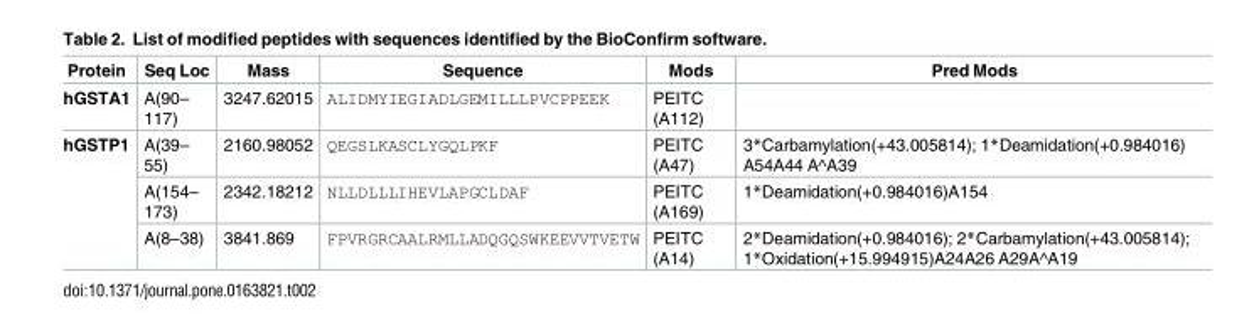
<table><thead><tr><td>Protein</td><td>Seq Loc</td><td>Mass</td><td>Sequence</td><td>Mods</td><td>Pred Mods</td></tr></thead><tbody><tr><td>hGSTA1</td><td>A(90– 117)</td><td>3247.62015</td><td>ALIDMYIEGIADLGEMILLLPVCPPEEK</td><td>PEITC (A112)</td><td></td></tr><tr><td rowspan="3">hGSTP1</td><td>A(39– 55)</td><td>2160.98052</td><td>QEGSLKASCLYGQLPKF</td><td>PEITC (A47)</td><td>3*Carbamylation(+43.005814); 1*Deamidation(+0.984016) A54A44 A^A39</td></tr><tr><td>A(154– 173)</td><td>2342.18212</td><td>NLLDLLLIHEVLAPGCLDAF</td><td>PEITC (A169)</td><td>1*Deamidation(+0.984016)A154</td></tr><tr><td>A(8–38)</td><td>3841.869</td><td>FPVRGRCAALRMLLADQGQSWKEEVVTVETW</td><td>PEITC (A14)</td><td>2*Deamidation(+0.984016); 2*Carbamylation(+43.005814); 1*Oxidation(+15.994915)A24A26 A29A^A19</td></tr></tbody></table>